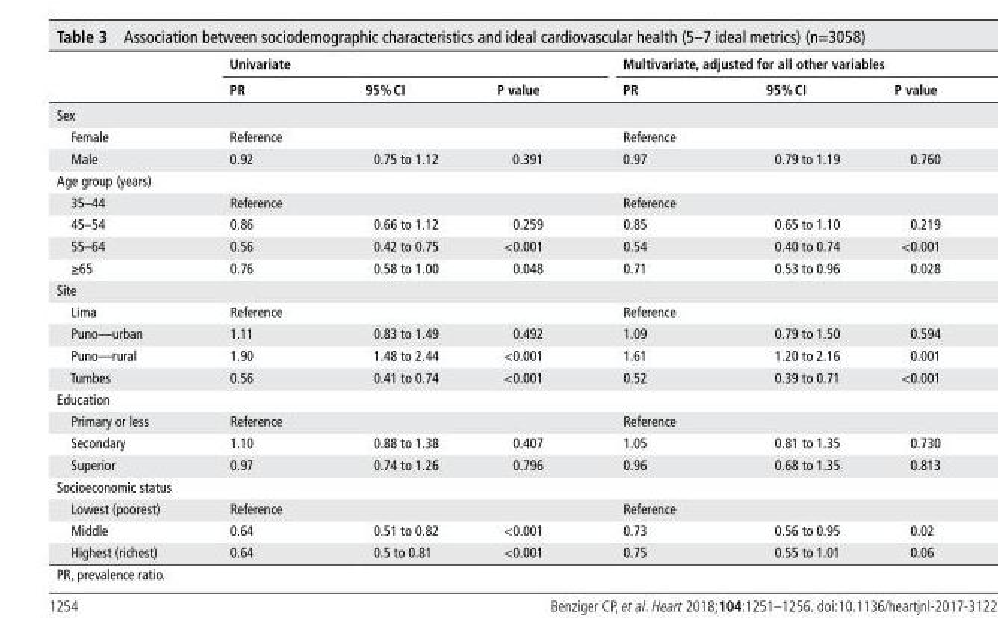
<table><thead><tr><td rowspan="2"></td><td colspan="3">univariate</td><td colspan="3">Multivariate, adjusted for all other variables</td></tr><tr><td>Pr</td><td>95% CI</td><td>P value</td><td>Pr</td><td>95% CI</td><td>P value</td></tr></thead><tbody><tr><td colspan="7">Sex</td></tr><tr><td>Female</td><td>Reference</td><td></td><td></td><td>Reference</td><td></td><td></td></tr><tr><td>Male</td><td>0.92</td><td>0.75 to 1.12</td><td>0.391</td><td>0.97</td><td>0.79 to 1.19</td><td>0.760</td></tr><tr><td colspan="7">Age group (years)</td></tr><tr><td>35–44</td><td>Reference</td><td></td><td></td><td>Reference</td><td></td><td></td></tr><tr><td>45–54</td><td>0.86</td><td>0.66 to 1.12</td><td>0.259</td><td>0.85</td><td>0.65 to 1.10</td><td>0.219</td></tr><tr><td>55–64</td><td>0.56</td><td>0.42 to 0.75</td><td>&lt;0.001</td><td>0.54</td><td>0.40 to 0.74</td><td>&lt;0.001</td></tr><tr><td>≥65</td><td>0.76</td><td>0.58 to 1.00</td><td>0.048</td><td>0.71</td><td>0.53 to 0.96</td><td>0.028</td></tr><tr><td colspan="7">Site</td></tr><tr><td>Lima</td><td>Reference</td><td></td><td></td><td>Reference</td><td></td><td></td></tr><tr><td>Puno—urban</td><td>1.11</td><td>0.83 to 1.49</td><td>0.492</td><td>1.09</td><td>0.79 to 1.50</td><td>0.594</td></tr><tr><td>Puno—rural</td><td>1.90</td><td>1.48 to 2.44</td><td>&lt;0.001</td><td>1.61</td><td>1.20 to 2.16</td><td>0.001</td></tr><tr><td>Tumbes</td><td>0.56</td><td>0.41 to 0.74</td><td>&lt;0.001</td><td>0.52</td><td>0.39 to 0.71</td><td>&lt;0.001</td></tr><tr><td colspan="7">Education</td></tr><tr><td>Primary or less</td><td>Reference</td><td></td><td></td><td>Reference</td><td></td><td></td></tr><tr><td>Secondary</td><td>1.10</td><td>0.88 to 1.38</td><td>0.407</td><td>1.05</td><td>0.81 to 1.35</td><td>0.730</td></tr><tr><td>Superior</td><td>0.97</td><td>0.74 to 1.26</td><td>0.796</td><td>0.96</td><td>0.68 to 1.35</td><td>0.813</td></tr><tr><td colspan="7">Socioeconomic status</td></tr><tr><td>Lowest (poorest)</td><td>Reference</td><td></td><td></td><td>Reference</td><td></td><td></td></tr><tr><td>Middle</td><td>0.64</td><td>0.51 to 0.82</td><td>&lt;0.001</td><td>0.73</td><td>0.56 to 0.95</td><td>0.02</td></tr><tr><td>Highest (richest)</td><td>0.64</td><td>0.5 to 0.81</td><td>&lt;0.001</td><td>0.75</td><td>0.55 to 1.01</td><td>0.06</td></tr></tbody></table>